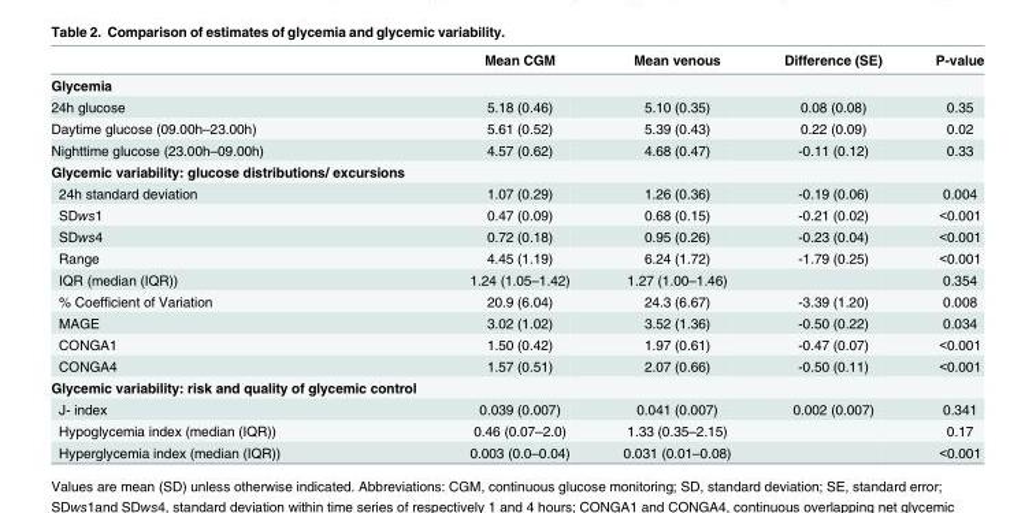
<table><thead><tr><td></td><td>Mean CGM</td><td>Mean venous</td><td>Difference (SE)</td><td>P-value</td></tr></thead><tbody><tr><td colspan="5">Glycemia</td></tr><tr><td>24h glucose</td><td>5.18 (0.46)</td><td>5.10 (0.35)</td><td>0.08 (0.08)</td><td>0.35</td></tr><tr><td>Daytime glucose (09.00h–23.00h)</td><td>5.61 (0.52)</td><td>5.39 (0.43)</td><td>0.22 (0.09)</td><td>0.02</td></tr><tr><td>Nighttime glucose (23.00h–09.00h)</td><td>4.57 (0.62)</td><td>4.68 (0.47)</td><td>-0.11 (0.12)</td><td>0.33</td></tr><tr><td colspan="5">Glycemic variability: glucose distributions/ excursions</td></tr><tr><td>24h standard deviation</td><td>1.07 (0.29)</td><td>1.26 (0.36)</td><td>-0.19 (0.06)</td><td>0.004</td></tr><tr><td>SDws1</td><td>0.47 (0.09)</td><td>0.68 (0.15)</td><td>-0.21 (0.02)</td><td>&lt;0.001</td></tr><tr><td>SDws4</td><td>0.72 (0.18)</td><td>0.95 (0.26)</td><td>-0.23 (0.04)</td><td>&lt;0.001</td></tr><tr><td>Range</td><td>4.45 (1.19)</td><td>6.24 (1.72)</td><td>-1.79 (0.25)</td><td>&lt;0.001</td></tr><tr><td>IQR (median (IQR))</td><td>1.24 (1.05–1.42)</td><td>1.27 (1.00–1.46)</td><td></td><td>0.354</td></tr><tr><td>% Coefficient of Variation</td><td>20.9 (6.04)</td><td>24.3 (6.67)</td><td>-3.39 (1.20)</td><td>0.008</td></tr><tr><td>MAGE</td><td>3.02 (1.02)</td><td>3.52 (1.36)</td><td>-0.50 (0.22)</td><td>0.034</td></tr><tr><td>CONGA1</td><td>1.50 (0.42)</td><td>1.97 (0.61)</td><td>-0.47 (0.07)</td><td>&lt;0.001</td></tr><tr><td>CONGA4</td><td>1.57 (0.51)</td><td>2.07 (0.66)</td><td>-0.50 (0.11)</td><td>&lt;0.001</td></tr><tr><td colspan="5">Glycemic variability: risk and quality of glycemic control</td></tr><tr><td>J- index</td><td>0.039 (0.007)</td><td>0.041 (0.007)</td><td>0.002 (0.007)</td><td>0.341</td></tr><tr><td>Hypoglycemia index (median (IQR))</td><td>0.46 (0.07–2.0)</td><td>1.33 (0.35–2.15)</td><td></td><td>0.17</td></tr><tr><td>Hyperglycemia index (median (IQR))</td><td>0.003 (0.0–0.04)</td><td>0.031 (0.01–0.08)</td><td></td><td>&lt;0.001</td></tr></tbody></table>